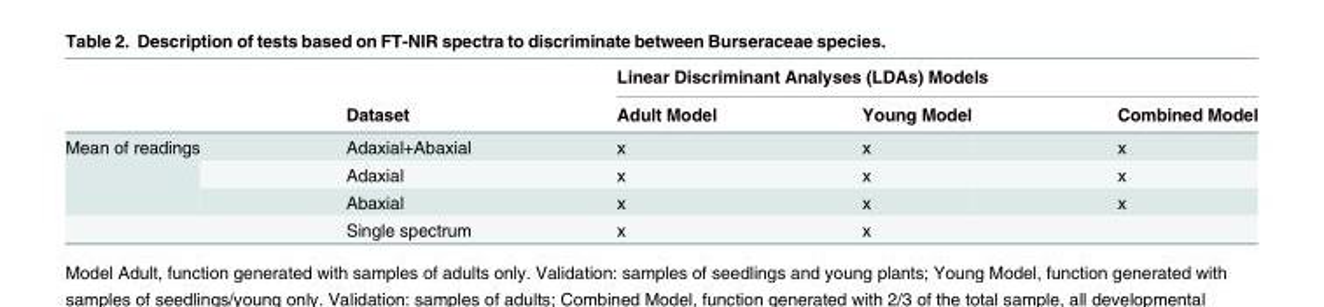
<table><thead><tr><td rowspan="2"></td><td rowspan="2">Dataset</td><td colspan="3">Linear Discriminant Analyses (LDAs) Models</td></tr><tr><td>Adult Model</td><td>Young Model</td><td>Combined Model</td></tr></thead><tbody><tr><td rowspan="4">Mean of readings</td><td>Adaxial+Abaxial</td><td>x</td><td>x</td><td>x</td></tr><tr><td>Adaxial</td><td>x</td><td>x</td><td>x</td></tr><tr><td>Abaxial</td><td>x</td><td>x</td><td>x</td></tr><tr><td>Single spectrum</td><td>x</td><td>x</td><td></td></tr></tbody></table>